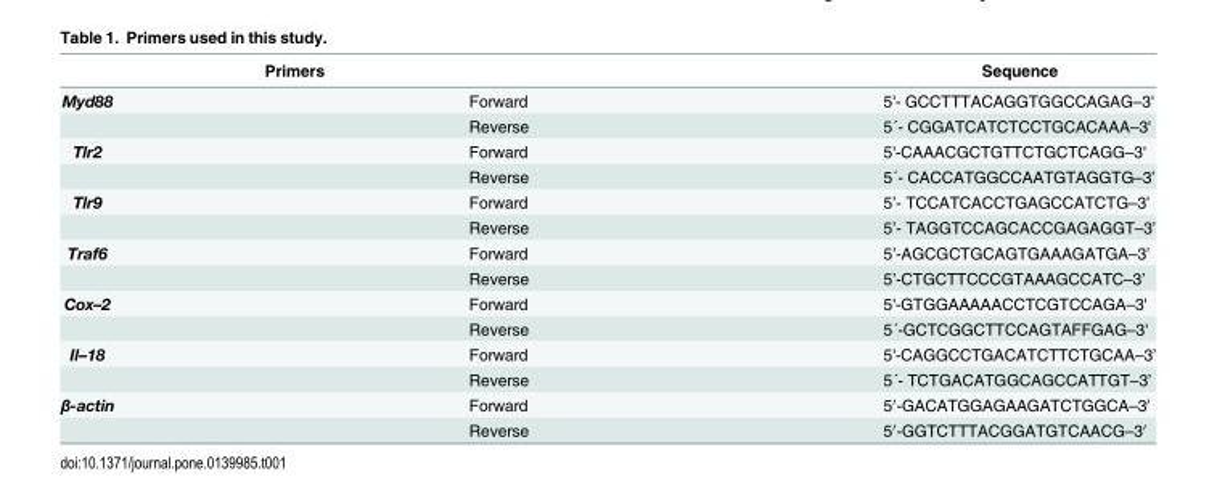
<table><thead><tr><td colspan="2">Primers</td><td rowspan="2">Sequence 5&#x27;- GCCTTTACAGGTGGCCAGAG–3&#x27;</td></tr><tr><td>Myd88</td><td>Forward</td></tr></thead><tbody><tr><td></td><td>Reverse</td><td>5´- CGGATCATCTCCTGCACAAA–3&#x27;</td></tr><tr><td rowspan="2">Tlr2</td><td>Forward</td><td>5&#x27;-CAAACGCTGTTCTGCTCAGG–3&#x27;</td></tr><tr><td>Reverse</td><td>5´- CACCATGGCCAATGTAGGTG–3’</td></tr><tr><td rowspan="2">Tlr9</td><td>Forward</td><td>5’- TCCATCACCTGAGCCATCTG–3’</td></tr><tr><td>Reverse</td><td>5’- TAGGTCCAGCACCGAGAGGT–3’</td></tr><tr><td rowspan="2">Traf6</td><td>Forward</td><td>5’-AGCGCTGCAGTGAAAGATGA–3’</td></tr><tr><td>Reverse</td><td>5’-CTGCTTCCCGTAAAGCCATC–3’</td></tr><tr><td rowspan="2">Cox–2</td><td>Forward</td><td>5&#x27;-GTGGAAAAACCTCGTCCAGA–3&#x27;</td></tr><tr><td>Reverse</td><td>5´-GCTCGGCTTCCAGTAFFGAG–3&#x27;</td></tr><tr><td rowspan="2">Il–18</td><td>Forward</td><td>5&#x27;-CAGGCCTGACATCTTCTGCAA–3’</td></tr><tr><td>Reverse</td><td>5´- TCTGACATGGCAGCCATTGT–3’</td></tr><tr><td rowspan="2">β-actin</td><td>Forward</td><td>5′-GACATGGAGAAGATCTGGCA–3′</td></tr><tr><td>Reverse</td><td>5′-GGTCTTTACGGATGTCAACG–3′</td></tr></tbody></table>